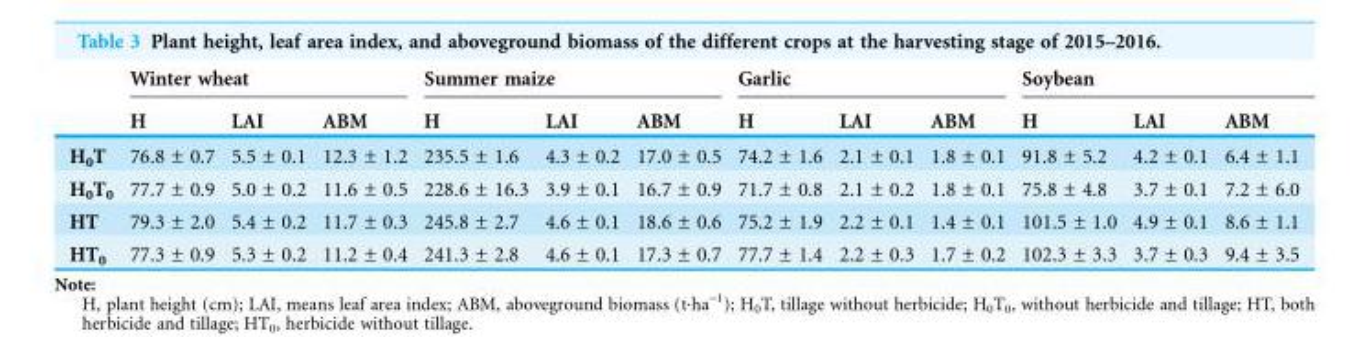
<table><thead><tr><td rowspan="2"></td><td colspan="3">Winter wheat</td><td colspan="3">Summer maize</td><td colspan="3">Garlic</td><td colspan="3">Soybean</td></tr><tr><td>H</td><td>LAI</td><td>ABM</td><td>H</td><td>LAI</td><td>ABM</td><td>H</td><td>LAI</td><td>ABM</td><td>H</td><td>LAI</td><td>ABM</td></tr></thead><tbody><tr><td>H<sub>0</sub>T</td><td>76.8 ± 0.7</td><td>5.5 ± 0.1</td><td>12.3 ± 1.2</td><td>235.5 ± 1.6</td><td>4.3 ± 0.2</td><td>17.0 ± 0.5</td><td>74.2 ± 1.6</td><td>2.1 ± 0.1</td><td>1.8 ± 0.1</td><td>91.8 ± 5.2</td><td>4.2 ± 0.1</td><td>6.4 ± 1.1</td></tr><tr><td>H<sub>0</sub>T<sub>0</sub></td><td>77.7 ± 0.9</td><td>5.0 ± 0.2</td><td>11.6 ± 0.5</td><td>228.6 ± 16.3</td><td>3.9 ± 0.1</td><td>16.7 ± 0.9</td><td>71.7 ± 0.8</td><td>2.1 ± 0.2</td><td>1.8 ± 0.1</td><td>75.8 ± 4.8</td><td>3.7 ± 0.1</td><td>7.2 ± 6.0</td></tr><tr><td>HT</td><td>79.3 ± 2.0</td><td>5.4 ± 0.2</td><td>11.7 ± 0.3</td><td>245.8 ± 2.7</td><td>4.6 ± 0.1</td><td>18.6 ± 0.6</td><td>75.2 ± 1.9</td><td>2.2 ± 0.1</td><td>1.4 ± 0.1</td><td>101.5 ± 1.0</td><td>4.9 ± 0.1</td><td>8.6 ± 1.1</td></tr><tr><td>HT<sub>0</sub></td><td>77.3 ± 0.9</td><td>5.3 ± 0.2</td><td>11.2 ± 0.4</td><td>241.3 ± 2.8</td><td>4.6 ± 0.1</td><td>17.3 ± 0.7</td><td>77.7 ± 1.4</td><td>2.2 ± 0.3</td><td>1.7 ± 0.2</td><td>102.3 ± 3.3</td><td>3.7 ± 0.3</td><td>9.4 ± 3.5</td></tr></tbody></table>